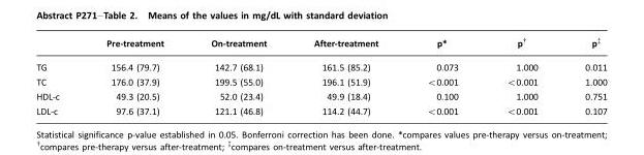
<table><thead><tr><td></td><td>Pre-treatment</td><td>On-treatment</td><td>After-treatment</td><td>p*</td><td>p†</td><td>p‡</td></tr></thead><tbody><tr><td>TG</td><td>156.4 (79.7)</td><td>142.7 (68.1)</td><td>161.5 (85.2)</td><td>0.073</td><td>1.000</td><td>0.011</td></tr><tr><td>TC</td><td>176.0 (37.9)</td><td>199.5 (55.0)</td><td>196.1 (51.9)</td><td>&lt;0.001</td><td>&lt;0.001</td><td>1.000</td></tr><tr><td>HDL-c</td><td>49.3 (20.5)</td><td>52.0 (23.4)</td><td>49.9 (18.4)</td><td>0.100</td><td>1.000</td><td>0.751</td></tr><tr><td>LDL-c</td><td>97.6 (37.1)</td><td>121.1 (46.8)</td><td>114.2 (44.7)</td><td>&lt;0.001</td><td>&lt;0.001</td><td>0.107</td></tr></tbody></table>